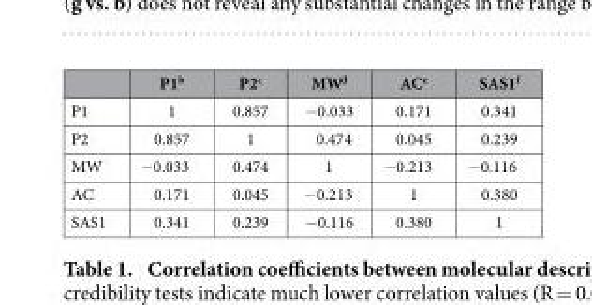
<table><thead><tr><td></td><td>P1<sup>b</sup></td><td>P2<sup>c</sup></td><td>MW<sup>d</sup></td><td>AC<sup>e</sup></td><td>SAS1<sup>f</sup></td></tr></thead><tbody><tr><td>P1</td><td>1</td><td>0.857</td><td>− 0.033</td><td>0.171</td><td>0.341</td></tr><tr><td>P2</td><td>0.857</td><td>1</td><td>0.474</td><td>0.045</td><td>0.239</td></tr><tr><td>MW</td><td>− 0.033</td><td>0.474</td><td>1</td><td>− 0.213</td><td>− 0.116</td></tr><tr><td>AC</td><td>0.171</td><td>0.045</td><td>− 0.213</td><td>1</td><td>0.380</td></tr><tr><td>SAS1</td><td>0.341</td><td>0.239</td><td>−0.116</td><td>0.380</td><td>1</td></tr></tbody></table>